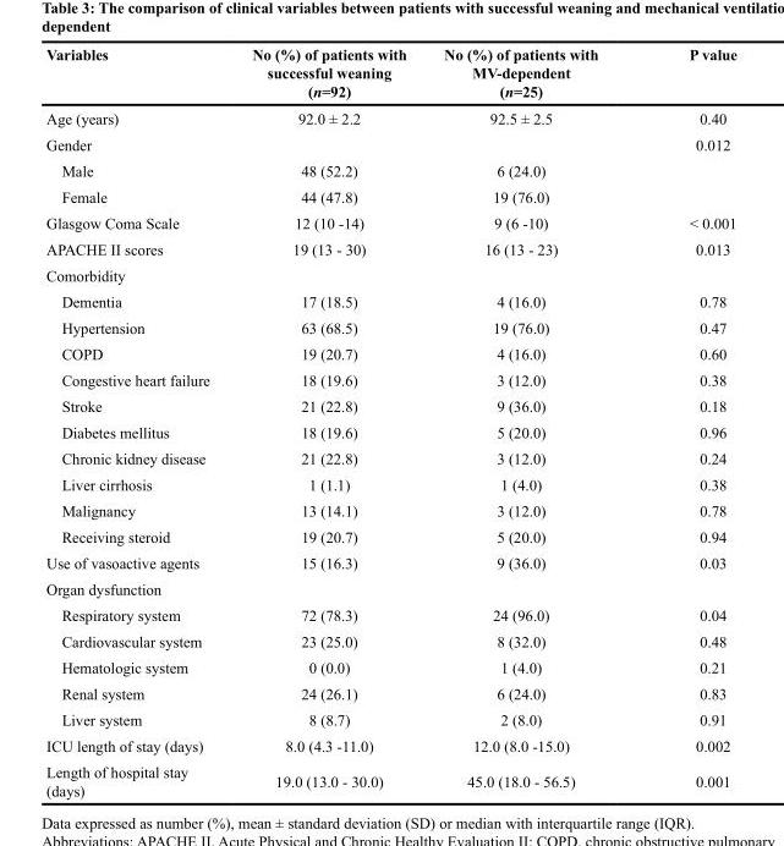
<table><thead><tr><td>Variables</td><td>No (%) of patients with successful weaning (n=92)</td><td>No (%) of patients with MV-dependent (n=25)</td><td>P value</td></tr></thead><tbody><tr><td>Age (years)</td><td>92.0 ± 2.2</td><td>92.5 ± 2.5</td><td>0.40</td></tr><tr><td>Gender</td><td></td><td></td><td>0.012</td></tr><tr><td>Male</td><td>48 (52.2)</td><td>6 (24.0)</td><td></td></tr><tr><td>Female</td><td>44 (47.8)</td><td>19 (76.0)</td><td></td></tr><tr><td>Glasgow Coma Scale</td><td>12 (10 -14)</td><td>9 (6 -10)</td><td>&lt; 0.001</td></tr><tr><td>APACHE II scores</td><td>19 (13 - 30)</td><td>16 (13 - 23)</td><td>0.013</td></tr><tr><td colspan="4">Comorbidity</td></tr><tr><td>Dementia</td><td>17 (18.5)</td><td>4 (16.0)</td><td>0.78</td></tr><tr><td>Hypertension</td><td>63 (68.5)</td><td>19 (76.0)</td><td>0.47</td></tr><tr><td>COPD</td><td>19 (20.7)</td><td>4 (16.0)</td><td>0.60</td></tr><tr><td>Congestive heart failure</td><td>18 (19.6)</td><td>3 (12.0)</td><td>0.38</td></tr><tr><td>Stroke</td><td>21 (22.8)</td><td>9 (36.0)</td><td>0.18</td></tr><tr><td>Diabetes mellitus</td><td>18 (19.6)</td><td>5 (20.0)</td><td>0.96</td></tr><tr><td>Chronic kidney disease</td><td>21 (22.8)</td><td>3 (12.0)</td><td>0.24</td></tr><tr><td>Liver cirrhosis</td><td>1 (1.1)</td><td>1 (4.0)</td><td>0.38</td></tr><tr><td>Malignancy</td><td>13 (14.1)</td><td>3 (12.0)</td><td>0.78</td></tr><tr><td>Receiving steroid</td><td>19 (20.7)</td><td>5 (20.0)</td><td>0.94</td></tr><tr><td>Use of vasoactive agents</td><td>15 (16.3)</td><td>9 (36.0)</td><td>0.03</td></tr><tr><td colspan="4">Organ dysfunction</td></tr><tr><td>Respiratory system</td><td>72 (78.3)</td><td>24 (96.0)</td><td>0.04</td></tr><tr><td>Cardiovascular system</td><td>23 (25.0)</td><td>8 (32.0)</td><td>0.48</td></tr><tr><td>Hematologic system</td><td>0 (0.0)</td><td>1 (4.0)</td><td>0.21</td></tr><tr><td>Renal system</td><td>24 (26.1)</td><td>6 (24.0)</td><td>0.83</td></tr><tr><td>Liver system</td><td>8 (8.7)</td><td>2 (8.0)</td><td>0.91</td></tr><tr><td>ICU length of stay (days)</td><td>8.0 (4.3 -11.0)</td><td>12.0 (8.0 -15.0)</td><td>0.002</td></tr><tr><td>Length of hospital stay (days)</td><td>19.0 (13.0 - 30.0)</td><td>45.0 (18.0 - 56.5)</td><td>0.001</td></tr></tbody></table>